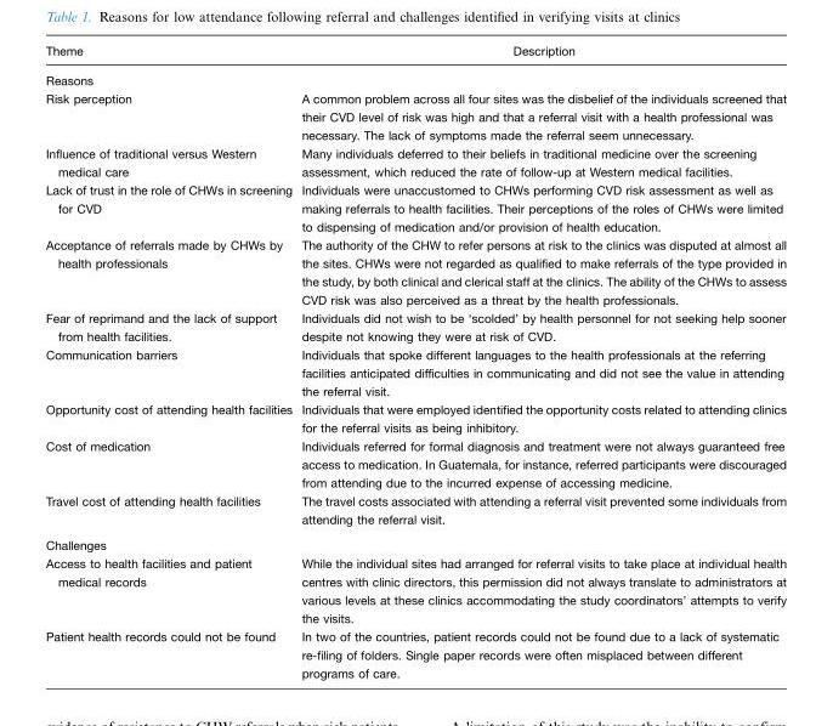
<table><thead><tr><td>Theme</td><td>Description</td></tr></thead><tbody><tr><td colspan="2">Reasons</td></tr><tr><td>Risk perception</td><td>A common problem across all four sites was the disbelief of the individuals screened that their CVD level of risk was high and that a referral visit with a health professional was necessary. The lack of symptoms made the referral seem unnecessary.</td></tr><tr><td>Influence of traditional versus Western medical care</td><td>Many individuals deferred to their beliefs in traditional medicine over the screening assessment, which reduced the rate of follow-up at Western medical facilities.</td></tr><tr><td>Lack of trust in the role of CHWs in screening for CVD</td><td>Individuals were unaccustomed to CHWs performing CVD risk assessment as well as making referrals to health facilities. Their perceptions of the roles of CHWs were limited to dispensing of medication and/or provision of health education.</td></tr><tr><td>Acceptance of referrals made by CHWs by health professionals</td><td>The authority of the CHW to refer persons at risk to the clinics was disputed at almost all the sites. CHWs were not regarded as qualified to make referrals of the type provided in the study, by both clinical and clerical staff at the clinics. The ability of the CHWs to assess CVD risk was also perceived as a threat by the health professionals.</td></tr><tr><td>Fear of reprimand and the lack of support from health facilities.</td><td>Individuals did not wish to be ‘scolded’ by health personnel for not seeking help sooner despite not knowing they were at risk of CVD.</td></tr><tr><td>Communication barriers</td><td>Individuals that spoke different languages to the health professionals at the referring facilities anticipated difficulties in communicating and did not see the value in attending the referral visit.</td></tr><tr><td>Opportunity cost of attending health facilities</td><td>Individuals that were employed identified the opportunity costs related to attending clinics for the referral visits as being inhibitory.</td></tr><tr><td>Cost of medication</td><td>Individuals referred for formal diagnosis and treatment were not always guaranteed free access to medication. In Guatemala, for instance, referred participants were discouraged from attending due to the incurred expense of accessing medicine.</td></tr><tr><td>Travel cost of attending health facilities</td><td>The travel costs associated with attending a referral visit prevented some individuals from attending the referral visit.</td></tr><tr><td colspan="2">Challenges</td></tr><tr><td>Access to health facilities and patient medical records</td><td>While the individual sites had arranged for referral visits to take place at individual health centres with clinic directors, this permission did not always translate to administrators at various levels at these clinics accommodating the study coordinators’ attempts to verify the visits.</td></tr><tr><td>Patient health records could not be found</td><td>In two of the countries, patient records could not be found due to a lack of systematic re-filing of folders. Single paper records were often misplaced between different programs of care.</td></tr></tbody></table>